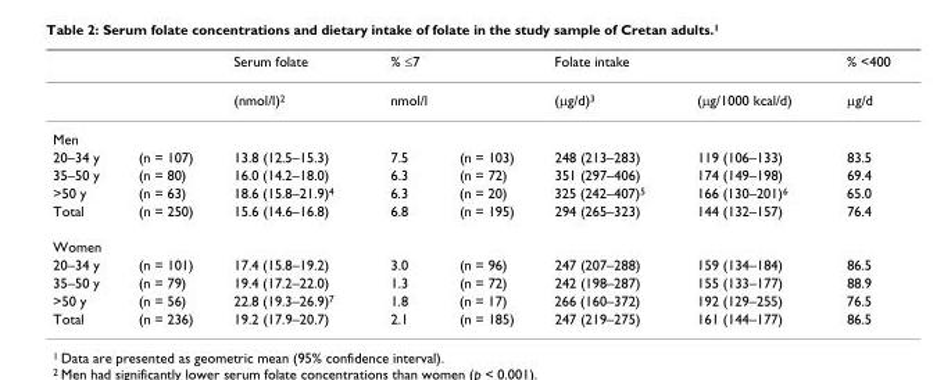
<table><thead><tr><td rowspan="2"></td><td rowspan="2"></td><td rowspan="2">Serum folate (nmol/l)2</td><td rowspan="2">% ≤7 nmol/l</td><td rowspan="2"></td><td colspan="2">Folate intake</td><td rowspan="2">% &lt;400 µg/d</td></tr><tr><td>(µg/d)3</td><td>(µg/1000 kcal/d)</td></tr></thead><tbody><tr><td colspan="8">Men</td></tr><tr><td>20–34 y</td><td>(n = 107)</td><td>13.8 (12.5–15.3)</td><td>7.5</td><td>(n = 103)</td><td>248 (213–283)</td><td>119 (106–133)</td><td>83.5</td></tr><tr><td>35–50 y</td><td>(n = 80)</td><td>16.0 (14.2–18.0)</td><td>6.3</td><td>(n = 72)</td><td>351 (297–406)</td><td>174 (149–198)</td><td>69.4</td></tr><tr><td>&gt;50 y</td><td>(n = 63)</td><td>18.6 (15.8–21.9)<sup>4</sup></td><td>6.3</td><td>(n = 20)</td><td>325 (242–407)<sup>5</sup></td><td>166 (130–201)<sup>6</sup></td><td>65.0</td></tr><tr><td>Total</td><td>(n = 250)</td><td>15.6 (14.6–16.8)</td><td>6.8</td><td>(n = 195)</td><td>294 (265–323)</td><td>144 (132–157)</td><td>76.4</td></tr><tr><td colspan="8">Women</td></tr><tr><td>20–34 y</td><td>(n = 101)</td><td>17.4 (15.8–19.2)</td><td>3.0</td><td>(n = 96)</td><td>247 (207–288)</td><td>159 (134–184)</td><td>86.5</td></tr><tr><td>35–50 y</td><td>(n = 79)</td><td>19.4 (17.2–22.0)</td><td>1.3</td><td>(n = 72)</td><td>242 (198–287)</td><td>155 (133–177)</td><td>88.9</td></tr><tr><td>&gt;50 y</td><td>(n = 56)</td><td>22.8 (19.3–26.9)<sup>7</sup></td><td>1.8</td><td>(n = 17)</td><td>266 (160–372)</td><td>192 (129–255)</td><td>76.5</td></tr><tr><td>Total</td><td>(n = 236)</td><td>19.2 (17.9–20.7)</td><td>2.1</td><td>(n = 185)</td><td>247 (219–275)</td><td>161 (144–177)</td><td>86.5</td></tr></tbody></table>